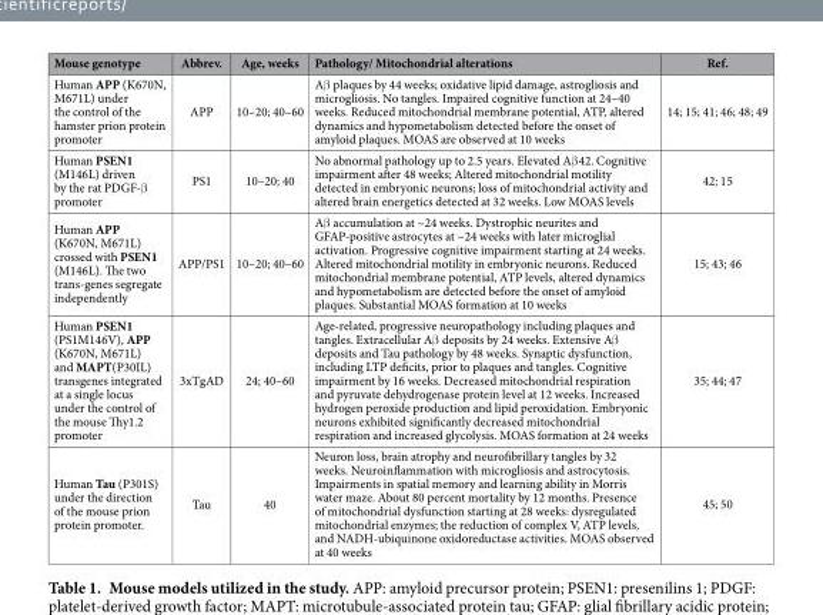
<table><thead><tr><td>Mouse genotype</td><td>Abbrev.</td><td>Age, weeks</td><td>Pathology/ Mitochondrial alterations</td><td>Ref.</td></tr></thead><tbody><tr><td>Human APP (K670N, M671L) under the control of the hamster prion protein promoter</td><td>APP</td><td>10–20; 40–60</td><td>Aβ plaques by 44 weeks; oxidative lipid damage, astrogliosis and microgliosis. No tangles. Impaired cognitive function at 24–40 weeks. Reduced mitochondrial membrane potential, ATP, altered dynamics and hypometabolism detected before the onset of amyloid plaques. MOAS are observed at 10 weeks</td><td>14; 15; 41; 46; 48; 49</td></tr><tr><td>Human PSEN1 (M146L) driven by the rat PDGF-β promoter</td><td>PS1</td><td>10–20; 40</td><td>No abnormal pathology up to 2.5 years. Elevated Aβ 42. Cognitive impairment after 48 weeks; Altered mitochondrial motility detected in embryonic neurons; loss of mitochondrial activity and altered brain energetics detected at 32 weeks. Low MOAS levels</td><td>42; 15</td></tr><tr><td>Human APP (K670N, M671L) crossed with PSEN1 (M146L). The two trans-genes segregate independently</td><td>APP/PS1</td><td>10–20; 40–60</td><td>Aβ accumulation at ~24 weeks. Dystrophic neurites and GFAP-positive astrocytes at ~24 weeks with later microglial activation. Progressive cognitive impairment starting at 24 weeks. Altered mitochondrial motility in embryonic neurons. Reduced mitochondrial membrane potential, ATP levels, altered dynamics and hypometabolism are detected before the onset of amyloid plaques. Substantial MOAS formation at 10 weeks</td><td>15; 43; 46</td></tr><tr><td>Human PSEN1 (PS1M146V), APP (K670N, M671L) and MAPT(P30IL) transgenes integrated at a single locus under the control of the mouse Thy1.2 promoter</td><td>3xTgAD</td><td>24; 40–60</td><td>Age-related, progressive neuropathology including plaques and tangles. Extracellular Aβ deposits by 24 weeks. Extensive Aβ deposits and Tau pathology by 48 weeks. Synaptic dysfunction, including LTP deficits, prior to plaques and tangles. Cognitive impairment by 16 weeks. Decreased mitochondrial respiration and pyruvate dehydrogenase protein level at 12 weeks. Increased hydrogen peroxide production and lipid peroxidation. Embryonic neurons exhibited significantly decreased mitochondrial respiration and increased glycolysis. MOAS formation at 24 weeks</td><td>35; 44; 47</td></tr><tr><td>Human Tau (P301S) under the direction of the mouse prion protein promoter.</td><td>Tau</td><td>40</td><td>Neuron loss, brain atrophy and neurofibrillary tangles by 32 weeks. Neuroinflammation with microgliosis and astrocytosis. Impairments in spatial memory and learning ability in Morris water maze. About 80 percent mortality by 12 months. Presence of mitochondrial dysfunction starting at 28 weeks: dysregulated mitochondrial enzymes; the reduction of complex V, ATP levels, and NADH-ubiquinone oxidoreductase activities. MOAS observed at 40 weeks</td><td>45; 50</td></tr></tbody></table>